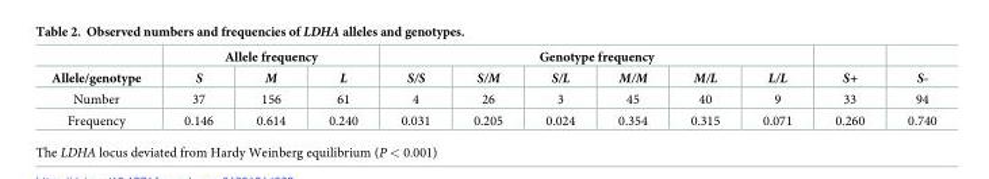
<table><thead><tr><td rowspan="2">Allele/genotype</td><td colspan="3">Allele frequency</td><td colspan="6">Genotype frequency</td><td rowspan="2">S+</td><td rowspan="2">S-</td></tr><tr><td>S</td><td>M</td><td>L</td><td>S/S</td><td>S/M</td><td>S/L</td><td>M/M</td><td>M/L</td><td>L/L</td></tr></thead><tbody><tr><td>Number</td><td>37</td><td>156</td><td>61</td><td>4</td><td>26</td><td>3</td><td>45</td><td>40</td><td>9</td><td>33</td><td>94</td></tr><tr><td>Frequency</td><td>0.146</td><td>0.614</td><td>0.240</td><td>0.031</td><td>0.205</td><td>0.024</td><td>0.354</td><td>0.315</td><td>0.071</td><td>0.260</td><td>0.740</td></tr></tbody></table>